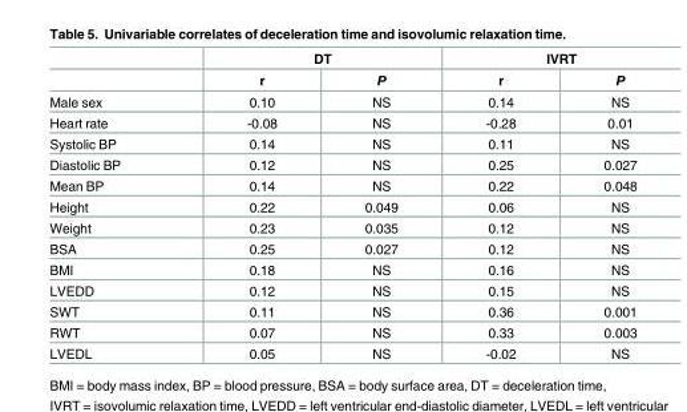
<table><thead><tr><td rowspan="2"></td><td colspan="2">DT</td><td colspan="2">IVRT</td></tr><tr><td>r</td><td>P</td><td>r</td><td>P</td></tr></thead><tbody><tr><td>Male sex</td><td>0.10</td><td>NS</td><td>0.14</td><td>NS</td></tr><tr><td>Heart rate</td><td>-0.08</td><td>NS</td><td>-0.28</td><td>0.01</td></tr><tr><td>Systolic BP</td><td>0.14</td><td>NS</td><td>0.11</td><td>NS</td></tr><tr><td>Diastolic BP</td><td>0.12</td><td>NS</td><td>0.25</td><td>0.027</td></tr><tr><td>Mean BP</td><td>0.14</td><td>NS</td><td>0.22</td><td>0.048</td></tr><tr><td>Height</td><td>0.22</td><td>0.049</td><td>0.06</td><td>NS</td></tr><tr><td>Weight</td><td>0.23</td><td>0.035</td><td>0.12</td><td>NS</td></tr><tr><td>BSA</td><td>0.25</td><td>0.027</td><td>0.12</td><td>NS</td></tr><tr><td>BMI</td><td>0.18</td><td>NS</td><td>0.16</td><td>NS</td></tr><tr><td>LVEDD</td><td>0.12</td><td>NS</td><td>0.15</td><td>NS</td></tr><tr><td>SWT</td><td>0.11</td><td>NS</td><td>0.36</td><td>0.001</td></tr><tr><td>RWT</td><td>0.07</td><td>NS</td><td>0.33</td><td>0.003</td></tr><tr><td>LVEDL</td><td>0.05</td><td>NS</td><td>-0.02</td><td>NS</td></tr></tbody></table>